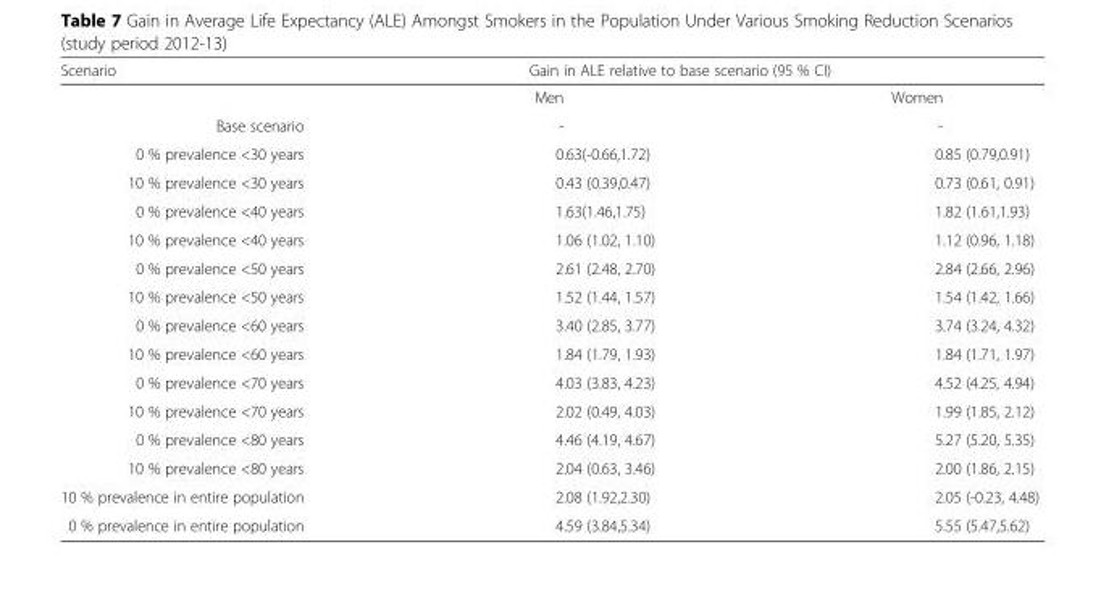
<table><thead><tr><td rowspan="2">Scenario</td><td colspan="2">Gain in ALE relative to base scenario (95 % CI)</td></tr><tr><td>Men</td><td>Women</td></tr></thead><tbody><tr><td>Base scenario</td><td>-</td><td>-</td></tr><tr><td>0 % prevalence &lt;30 years</td><td>0.63(-0.66,1.72)</td><td>0.85 (0.79,0.91)</td></tr><tr><td>10 % prevalence &lt;30 years</td><td>0.43 (0.39,0.47)</td><td>0.73 (0.61, 0.91)</td></tr><tr><td>0 % prevalence &lt;40 years</td><td>1.63(1.46,1.75)</td><td>1.82 (1.61,1.93)</td></tr><tr><td>10 % prevalence &lt;40 years</td><td>1.06 (1.02, 1.10)</td><td>1.12 (0.96, 1.18)</td></tr><tr><td>0 % prevalence &lt;50 years</td><td>2.61 (2.48, 2.70)</td><td>2.84 (2.66, 2.96)</td></tr><tr><td>10 % prevalence &lt;50 years</td><td>1.52 (1.44, 1.57)</td><td>1.54 (1.42, 1.66)</td></tr><tr><td>0 % prevalence &lt;60 years</td><td>3.40 (2.85, 3.77)</td><td>3.74 (3.24, 4.32)</td></tr><tr><td>10 % prevalence &lt;60 years</td><td>1.84 (1.79, 1.93)</td><td>1.84 (1.71, 1.97)</td></tr><tr><td>0 % prevalence &lt;70 years</td><td>4.03 (3.83, 4.23)</td><td>4.52 (4.25, 4.94)</td></tr><tr><td>10 % prevalence &lt;70 years</td><td>2.02 (0.49, 4.03)</td><td>1.99 (1.85, 2.12)</td></tr><tr><td>0 % prevalence &lt;80 years</td><td>4.46 (4.19, 4.67)</td><td>5.27 (5.20, 5.35)</td></tr><tr><td>10 % prevalence &lt;80 years</td><td>2.04 (0.63, 3.46)</td><td>2.00 (1.86, 2.15)</td></tr><tr><td>10 % prevalence in entire population</td><td>2.08 (1.92,2.30)</td><td>2.05 (-0.23, 4.48)</td></tr><tr><td>0 % prevalence in entire population</td><td>4.59 (3.84,5.34)</td><td>5.55 (5.47,5.62)</td></tr></tbody></table>